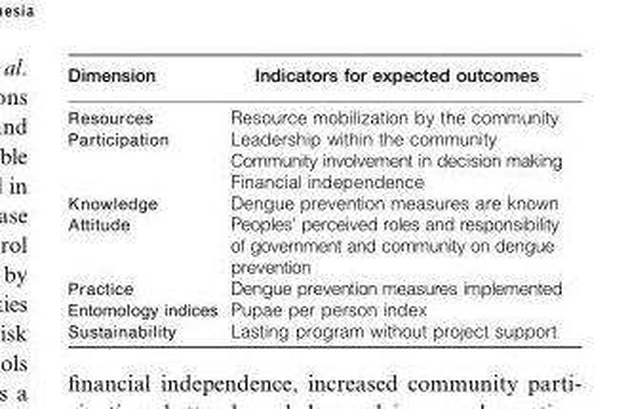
<table><thead><tr><td>Dimension</td><td>Indicators for expected outcomes</td></tr></thead><tbody><tr><td>Resources</td><td>Resource mobilization by the community</td></tr><tr><td rowspan="3">Participation</td><td>Leadership within the community</td></tr><tr><td>Community involvement in decision making</td></tr><tr><td>Financial independence</td></tr><tr><td>Knowledge</td><td>Dengue prevention measures are known</td></tr><tr><td>Attitude</td><td>Peoples’ perceived roles and responsibility of government and community on dengue prevention</td></tr><tr><td>Practice</td><td>Dengue prevention measures implemented</td></tr><tr><td>Entomology indices</td><td>Pupae per person index</td></tr><tr><td>Sustainability</td><td>Lasting program without project support</td></tr></tbody></table>